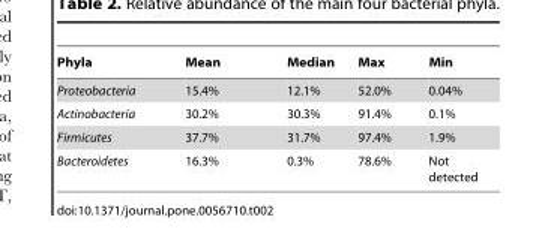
<table><thead><tr><td>Phyla</td><td>Mean</td><td>Median</td><td>Max</td><td>Min</td></tr></thead><tbody><tr><td>Proteobacteria</td><td>15.4%</td><td>12.1%</td><td>52.0%</td><td>0.04%</td></tr><tr><td>Actinobacteria</td><td>30.2%</td><td>30.3%</td><td>91.4%</td><td>0.1%</td></tr><tr><td>Firmicutes</td><td>37.7%</td><td>31.7%</td><td>97.4%</td><td>1.9%</td></tr><tr><td>Bacteroidetes</td><td>16.3%</td><td>0.3%</td><td>78.6%</td><td>Not detected</td></tr></tbody></table>